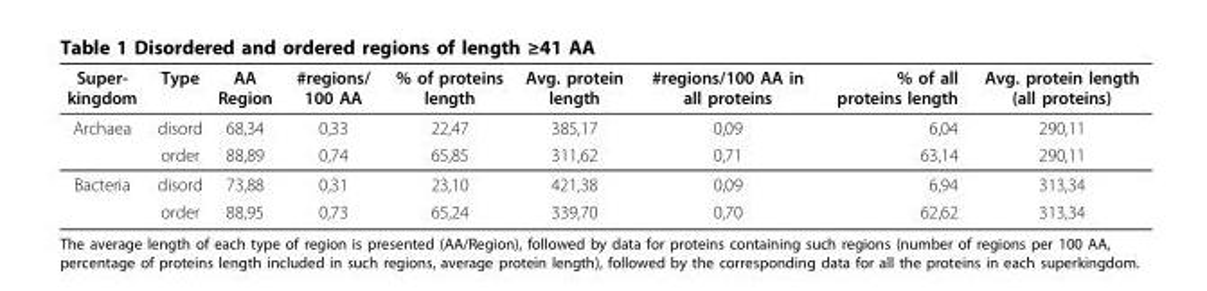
<table><thead><tr><td>Super- kingdom</td><td>Type</td><td>AA Region</td><td>#regions/ 100 AA</td><td>% of proteins length</td><td>Avg. protein length</td><td>#regions/100 AA in all proteins</td><td>% of all proteins length</td><td>Avg. protein length (all proteins)</td></tr></thead><tbody><tr><td rowspan="2">Archaea</td><td>disord</td><td>68,34</td><td>0,33</td><td>22,47</td><td>385,17</td><td>0,09</td><td>6,04</td><td>290,11</td></tr><tr><td>order</td><td>88,89</td><td>0,74</td><td>65,85</td><td>311,62</td><td>0,71</td><td>63,14</td><td>290,11</td></tr><tr><td rowspan="2">Bacteria</td><td>disord</td><td>73,88</td><td>0,31</td><td>23,10</td><td>421,38</td><td>0,09</td><td>6,94</td><td>313,34</td></tr><tr><td>order</td><td>88,95</td><td>0,73</td><td>65,24</td><td>339,70</td><td>0,70</td><td>62,62</td><td>313,34</td></tr></tbody></table>